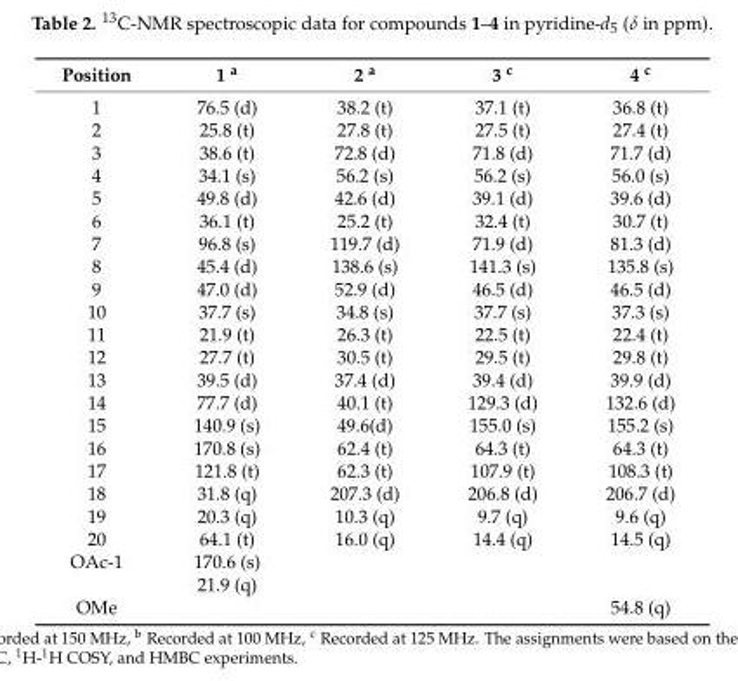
<table><thead><tr><td>Position</td><td>1 <sup>a</sup></td><td>2 <sup>a</sup></td><td>3 <sup>c</sup></td><td>4 <sup>c</sup></td></tr></thead><tbody><tr><td>1</td><td>76.5 (d)</td><td>38.2 (t)</td><td>37.1 (t)</td><td>36.8 (t)</td></tr><tr><td>2</td><td>25.8 (t)</td><td>27.8 (t)</td><td>27.5 (t)</td><td>27.4 (t)</td></tr><tr><td>3</td><td>38.6 (t)</td><td>72.8 (d)</td><td>71.8 (d)</td><td>71.7 (d)</td></tr><tr><td>4</td><td>34.1 (s)</td><td>56.2 (s)</td><td>56.2 (s)</td><td>56.0 (s)</td></tr><tr><td>5</td><td>49.8 (d)</td><td>42.6 (d)</td><td>39.1 (d)</td><td>39.6 (d)</td></tr><tr><td>6</td><td>36.1 (t)</td><td>25.2 (t)</td><td>32.4 (t)</td><td>30.7 (t)</td></tr><tr><td>7</td><td>96.8 (s)</td><td>119.7 (d)</td><td>71.9 (d)</td><td>81.3 (d)</td></tr><tr><td>8</td><td>45.4 (d)</td><td>138.6 (s)</td><td>141.3 (s)</td><td>135.8 (s)</td></tr><tr><td>9</td><td>47.0 (d)</td><td>52.9 (d)</td><td>46.5 (d)</td><td>46.5 (d)</td></tr><tr><td>10</td><td>37.7 (s)</td><td>34.8 (s)</td><td>37.7 (s)</td><td>37.3 (s)</td></tr><tr><td>11</td><td>21.9 (t)</td><td>26.3 (t)</td><td>22.5 (t)</td><td>22.4 (t)</td></tr><tr><td>12</td><td>27.7 (t)</td><td>30.5 (t)</td><td>29.5 (t)</td><td>29.8 (t)</td></tr><tr><td>13</td><td>39.5 (d)</td><td>37.4 (d)</td><td>39.4 (d)</td><td>39.9 (d)</td></tr><tr><td>14</td><td>77.7 (d)</td><td>40.1 (t)</td><td>129.3 (d)</td><td>132.6 (d)</td></tr><tr><td>15</td><td>140.9 (s)</td><td>49.6(d)</td><td>155.0 (s)</td><td>155.2 (s)</td></tr><tr><td>16</td><td>170.8 (s)</td><td>62.4 (t)</td><td>64.3 (t)</td><td>64.3 (t)</td></tr><tr><td>17</td><td>121.8 (t)</td><td>62.3 (t)</td><td>107.9 (t)</td><td>108.3 (t)</td></tr><tr><td>18</td><td>31.8 (q)</td><td>207.3 (d)</td><td>206.8 (d)</td><td>206.7 (d)</td></tr><tr><td>19</td><td>20.3 (q)</td><td>10.3 (q)</td><td>9.7 (q)</td><td>9.6 (q)</td></tr><tr><td>20</td><td>64.1 (t)</td><td>16.0 (q)</td><td>14.4 (q)</td><td>14.5 (q)</td></tr><tr><td rowspan="2">OAc-1</td><td>170.6 (s)</td><td></td><td></td><td></td></tr><tr><td>21.9 (q)</td><td></td><td></td><td></td></tr><tr><td>OMe</td><td></td><td></td><td></td><td>54.8 (q)</td></tr></tbody></table>